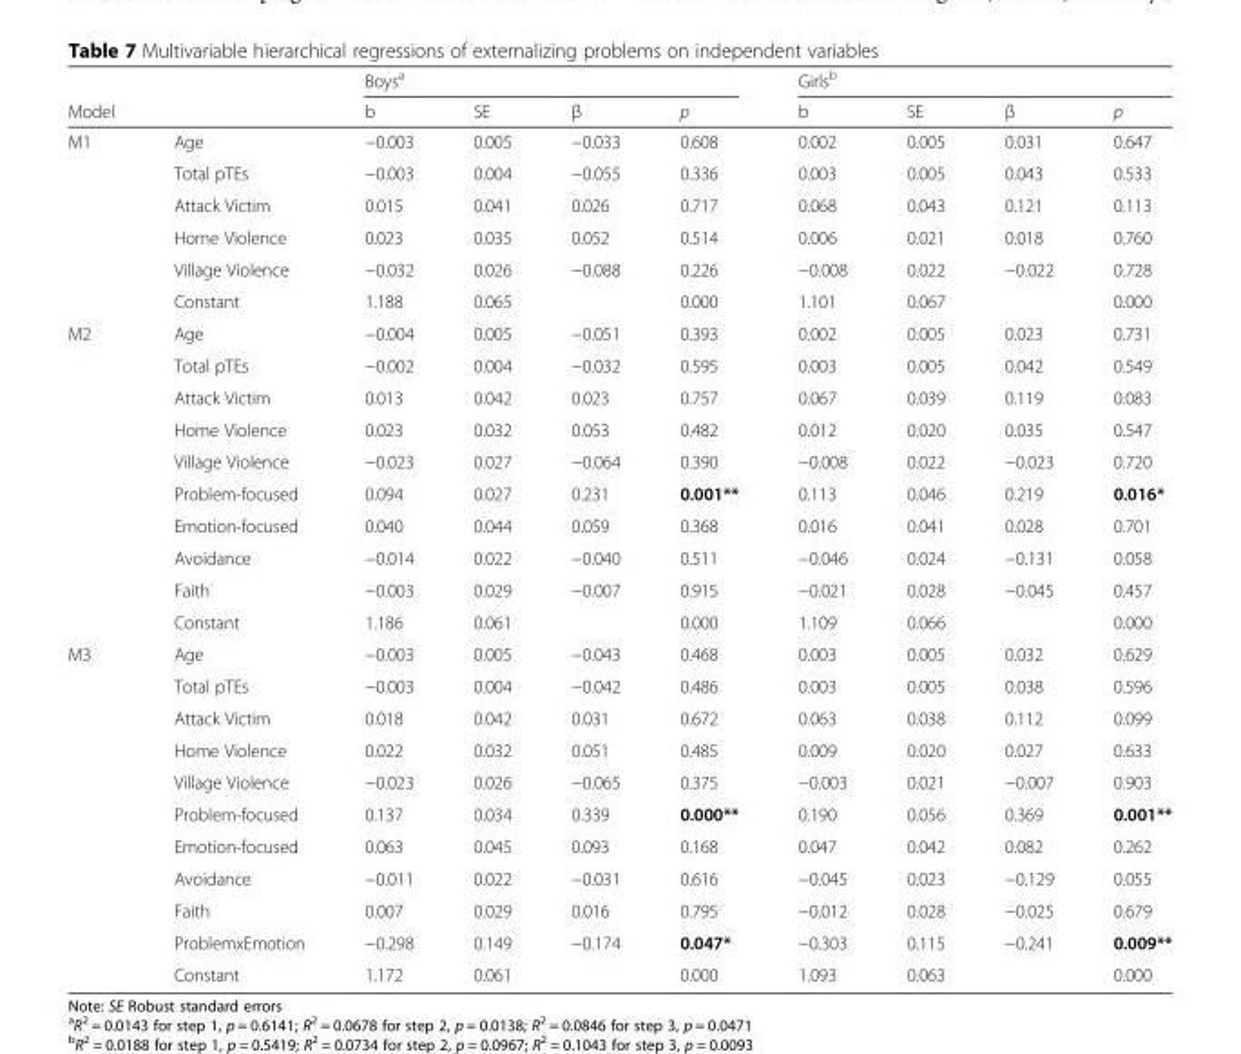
<table><thead><tr><td rowspan="2">Model</td><td rowspan="2"></td><td rowspan="2">Boys<sup>a</sup> b</td><td rowspan="2">SE</td><td rowspan="2">β</td><td rowspan="2">p</td><td rowspan="2">Girls<sup>b</sup> b</td><td rowspan="2">SE</td><td rowspan="2">β</td><td rowspan="2">p</td></tr><tr></tr></thead><tbody><tr><td rowspan="6">M1</td><td>Age</td><td>−0.003</td><td>0.005</td><td>−0.033</td><td>0.608</td><td>0.002</td><td>0.005</td><td>0.031</td><td>0.647</td></tr><tr><td>Total pTEs</td><td>−0.003</td><td>0.004</td><td>−0.055</td><td>0.336</td><td>0.003</td><td>0.005</td><td>0.043</td><td>0.533</td></tr><tr><td>Attack Victim</td><td>0.015</td><td>0.041</td><td>0.026</td><td>0.717</td><td>0.068</td><td>0.043</td><td>0.121</td><td>0.113</td></tr><tr><td>Home Violence</td><td>0.023</td><td>0.035</td><td>0.052</td><td>0.514</td><td>0.006</td><td>0.021</td><td>0.018</td><td>0.760</td></tr><tr><td>Village Violence</td><td>−0.032</td><td>0.026</td><td>−0.088</td><td>0.226</td><td>−0.008</td><td>0.022</td><td>−0.022</td><td>0.728</td></tr><tr><td>Constant</td><td>1.188</td><td>0.065</td><td></td><td>0.000</td><td>1.101</td><td>0.067</td><td></td><td>0.000</td></tr><tr><td rowspan="10">M2</td><td>Age</td><td>−0.004</td><td>0.005</td><td>−0.051</td><td>0.393</td><td>0.002</td><td>0.005</td><td>0.023</td><td>0.731</td></tr><tr><td>Total pTEs</td><td>−0.002</td><td>0.004</td><td>−0.032</td><td>0.595</td><td>0.003</td><td>0.005</td><td>0.042</td><td>0.549</td></tr><tr><td>Attack Victim</td><td>0.013</td><td>0.042</td><td>0.023</td><td>0.757</td><td>0.067</td><td>0.039</td><td>0.119</td><td>0.083</td></tr><tr><td>Home Violence</td><td>0.023</td><td>0.032</td><td>0.053</td><td>0.482</td><td>0.012</td><td>0.020</td><td>0.035</td><td>0.547</td></tr><tr><td>Village Violence</td><td>−0.023</td><td>0.027</td><td>−0.064</td><td>0.390</td><td>−0.008</td><td>0.022</td><td>−0.023</td><td>0.720</td></tr><tr><td>Problem-focused</td><td>0.094</td><td>0.027</td><td>0.231</td><td>0.001**</td><td>0.113</td><td>0.046</td><td>0.219</td><td>0.016*</td></tr><tr><td>Emotion-focused</td><td>0.040</td><td>0.044</td><td>0.059</td><td>0.368</td><td>0.016</td><td>0.041</td><td>0.028</td><td>0.701</td></tr><tr><td>Avoidance</td><td>−0.014</td><td>0.022</td><td>−0.040</td><td>0.511</td><td>−0.046</td><td>0.024</td><td>−0.131</td><td>0.058</td></tr><tr><td>Faith</td><td>−0.003</td><td>0.029</td><td>−0.007</td><td>0.915</td><td>−0.021</td><td>0.028</td><td>−0.045</td><td>0.457</td></tr><tr><td>Constant</td><td>1.186</td><td>0.061</td><td></td><td>0.000</td><td>1.109</td><td>0.066</td><td></td><td>0.000</td></tr><tr><td rowspan="11">M3</td><td>Age</td><td>−0.003</td><td>0.005</td><td>−0.043</td><td>0.468</td><td>0.003</td><td>0.005</td><td>0.032</td><td>0.629</td></tr><tr><td>Total pTEs</td><td>−0.003</td><td>0.004</td><td>−0.042</td><td>0.486</td><td>0.003</td><td>0.005</td><td>0.038</td><td>0.596</td></tr><tr><td>Attack Victim</td><td>0.018</td><td>0.042</td><td>0.031</td><td>0.672</td><td>0.063</td><td>0.038</td><td>0.112</td><td>0.099</td></tr><tr><td>Home Violence</td><td>0.022</td><td>0.032</td><td>0.051</td><td>0.485</td><td>0.009</td><td>0.020</td><td>0.027</td><td>0.633</td></tr><tr><td>Village Violence</td><td>−0.023</td><td>0.026</td><td>−0.065</td><td>0.375</td><td>−0.003</td><td>0.021</td><td>−0.007</td><td>0.903</td></tr><tr><td>Problem-focused</td><td>0.137</td><td>0.034</td><td>0.339</td><td>0.000**</td><td>0.190</td><td>0.056</td><td>0.369</td><td>0.001**</td></tr><tr><td>Emotion-focused</td><td>0.063</td><td>0.045</td><td>0.093</td><td>0.168</td><td>0.047</td><td>0.042</td><td>0.082</td><td>0.262</td></tr><tr><td>Avoidance</td><td>−0.011</td><td>0.022</td><td>−0.031</td><td>0.616</td><td>−0.045</td><td>0.023</td><td>−0.129</td><td>0.055</td></tr><tr><td>Faith</td><td>0.007</td><td>0.029</td><td>0.016</td><td>0.795</td><td>−0.012</td><td>0.028</td><td>−0.025</td><td>0.679</td></tr><tr><td>ProblemxEmotion</td><td>−0.298</td><td>0.149</td><td>−0.174</td><td>0.047*</td><td>−0.303</td><td>0.115</td><td>−0.241</td><td>0.009**</td></tr><tr><td>Constant</td><td>1.172</td><td>0.061</td><td></td><td>0.000</td><td>1.093</td><td>0.063</td><td></td><td>0.000</td></tr></tbody></table>